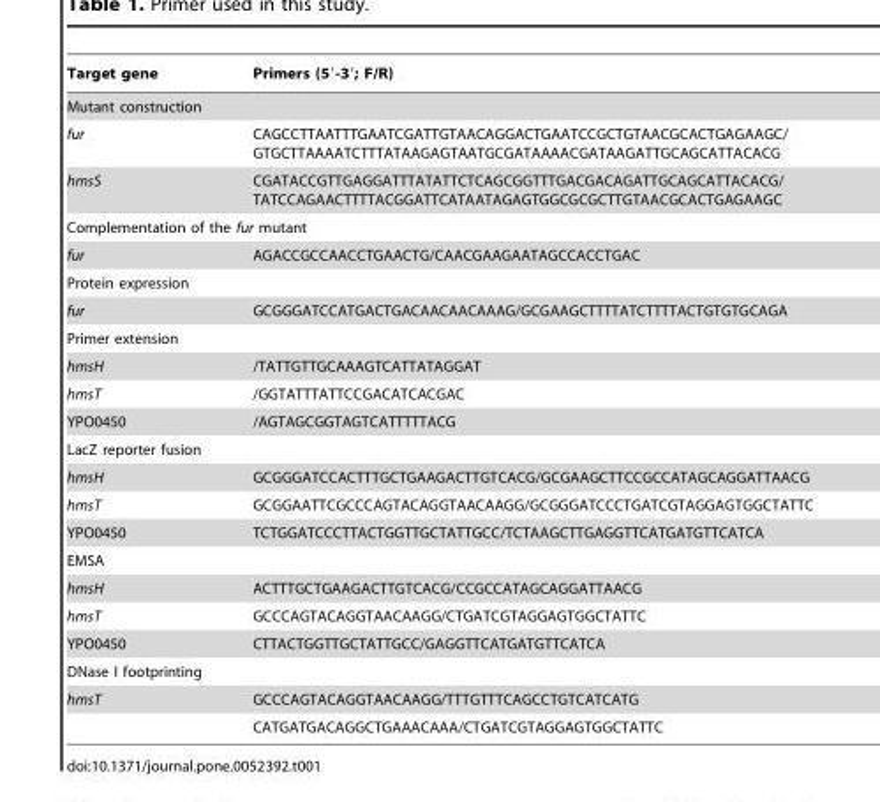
<table><thead><tr><td>Target gene</td><td>Primers (5′-3′; F/R)</td></tr></thead><tbody><tr><td colspan="2">Mutant construction</td></tr><tr><td>fur</td><td>CAGCCTTAATTTGAATCGATTGTAACAGGACTGAATCCGCTGTAACGCACTGAGAAGC/ GTGCTTAAAATCTTTATAAGAGTAATGCGATAAAACGATAAGATTGCAGCATTACACG</td></tr><tr><td>hmsS</td><td>CGATACCGTTGAGGATTTATATTCTCAGCGGTTTGACGACAGATTGCAGCATTACACG/ TATCCAGAACTTTTACGGATTCATAATAGAGTGGCGCGCTTGTAACGCACTGAGAAGC</td></tr><tr><td colspan="2">Complementation of the fur mutant</td></tr><tr><td>fur</td><td>AGACCGCCAACCTGAACTG/CAACGAAGAATAGCCACCTGAC</td></tr><tr><td colspan="2">Protein expression</td></tr><tr><td>fur</td><td>GCGGGATCCATGACTGACAACAACAAAG/GCGAAGCTTTTATCTTTTACTGTGTGCAGA</td></tr><tr><td colspan="2">Primer extension</td></tr><tr><td>hmsH</td><td>/TATTGTTGCAAAGTCATTATAGGAT</td></tr><tr><td>hmsT</td><td>/GGTATTTATTCCGACATCACGAC</td></tr><tr><td>YPO0450</td><td>/AGTAGCGGTAGTCATTTTTACG</td></tr><tr><td colspan="2">LacZ reporter fusion</td></tr><tr><td>hmsH</td><td>GCGGGATCCACTTTGCTGAAGACTTGTCACG/GCGAAGCTTCCGCCATAGCAGGATTAACG</td></tr><tr><td>hmsT</td><td>GCGGAATTCGCCCAGTACAGGTAACAAGG/GCGGGATCCCTGATCGTAGGAGTGGCTATTC</td></tr><tr><td>YPO0450</td><td>TCTGGATCCCTTACTGGTTGCTATTGCC/TCTAAGCTTGAGGTTCATGATGTTCATCA</td></tr><tr><td colspan="2">EMSA</td></tr><tr><td>hmsH</td><td>ACTTTGCTGAAGACTTGTCACG/CCGCCATAGCAGGATTAACG</td></tr><tr><td>hmsT</td><td>GCCCAGTACAGGTAACAAGG/CTGATCGTAGGAGTGGCTATTC</td></tr><tr><td>YPO0450</td><td>CTTACTGGTTGCTATTGCC/GAGGTTCATGATGTTCATCA</td></tr><tr><td colspan="2">DNase I footprinting</td></tr><tr><td rowspan="2">hmsT</td><td>GCCCAGTACAGGTAACAAGG/TTTGTTTCAGCCTGTCATCATG</td></tr><tr><td>CATGATGACAGGCTGAAACAAA/CTGATCGTAGGAGTGGCTATTC</td></tr></tbody></table>